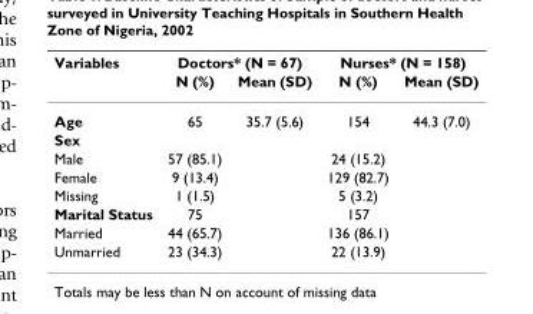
<table><thead><tr><td rowspan="2">Variables</td><td colspan="2">Doctors* (N = 67)</td><td colspan="2">Nurses* (N = 158)</td></tr><tr><td>N (%)</td><td>Mean (SD)</td><td>N (%)</td><td>Mean (SD)</td></tr></thead><tbody><tr><td>Age</td><td>65</td><td>35.7 (5.6)</td><td>154</td><td>44.3 (7.0)</td></tr><tr><td colspan="5">Sex</td></tr><tr><td>Male</td><td>57 (85.1)</td><td></td><td>24 (15.2)</td><td></td></tr><tr><td>Female</td><td>9 (13.4)</td><td></td><td>129 (82.7)</td><td></td></tr><tr><td>Missing</td><td>1 (1.5)</td><td></td><td>5 (3.2)</td><td></td></tr><tr><td>Marital Status</td><td>75</td><td></td><td>157</td><td></td></tr><tr><td>Married</td><td>44 (65.7)</td><td></td><td>136 (86.1)</td><td></td></tr><tr><td>Unmarried</td><td>23 (34.3)</td><td></td><td>22 (13.9)</td><td></td></tr></tbody></table>